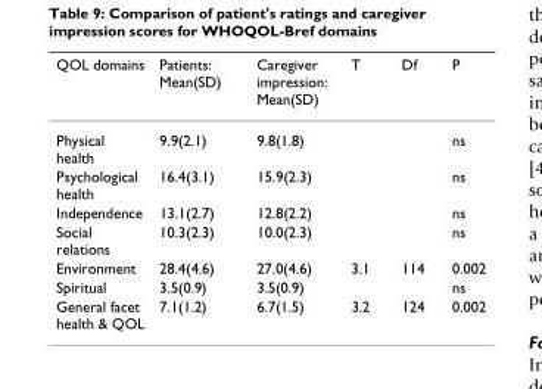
<table><thead><tr><td>QOL domains</td><td>Patients: Mean(SD)</td><td>Caregiver impression: Mean(SD)</td><td>T</td><td>Df</td><td>P</td></tr></thead><tbody><tr><td>Physical health</td><td>9.9(2.1)</td><td>9.8(1.8)</td><td></td><td></td><td>ns</td></tr><tr><td>Psychological health</td><td>16.4(3.1)</td><td>15.9(2.3)</td><td></td><td></td><td>ns</td></tr><tr><td>Independence</td><td>13.1(2.7)</td><td>12.8(2.2)</td><td></td><td></td><td>ns</td></tr><tr><td>Social relations</td><td>10.3(2.3)</td><td>10.0(2.3)</td><td></td><td></td><td>ns</td></tr><tr><td>Environment</td><td>28.4(4.6)</td><td>27.0(4.6)</td><td>3.1</td><td>114</td><td>0.002</td></tr><tr><td>Spiritual</td><td>3.5(0.9)</td><td>3.5(0.9)</td><td></td><td></td><td>ns</td></tr><tr><td>General facet health &amp; QOL</td><td>7.1(1.2)</td><td>6.7(1.5)</td><td>3.2</td><td>124</td><td>0.002</td></tr></tbody></table>